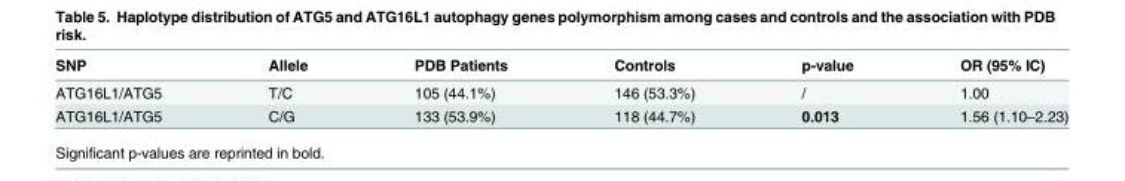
<table><thead><tr><td>SNP</td><td>Allele</td><td>PDB Patients</td><td>Controls</td><td>p-value</td><td>OR (95% IC)</td></tr></thead><tbody><tr><td>ATG16L1/ATG5</td><td>T/C</td><td>105 (44.1%)</td><td>146 (53.3%)</td><td>/</td><td>1.00</td></tr><tr><td>ATG16L1/ATG5</td><td>C/G</td><td>133 (53.9%)</td><td>118 (44.7%)</td><td>0.013</td><td>1.56 (1.10–2.23)</td></tr></tbody></table>